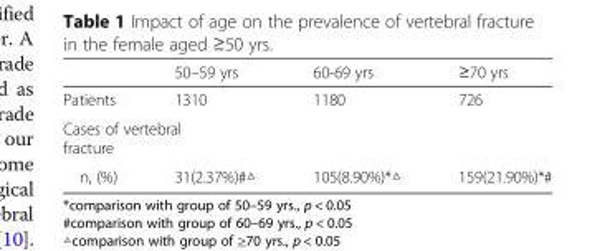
<table><thead><tr><td></td><td>50–59 yrs</td><td>60-69 yrs</td><td>≥70 yrs</td></tr></thead><tbody><tr><td>Patients</td><td>1310</td><td>1180</td><td>726</td></tr><tr><td colspan="4">Cases of vertebral fracture</td></tr><tr><td>n, (%)</td><td>31(2.37%)#△</td><td>105(8.90%)*△</td><td>159(21.90%)*#</td></tr></tbody></table>